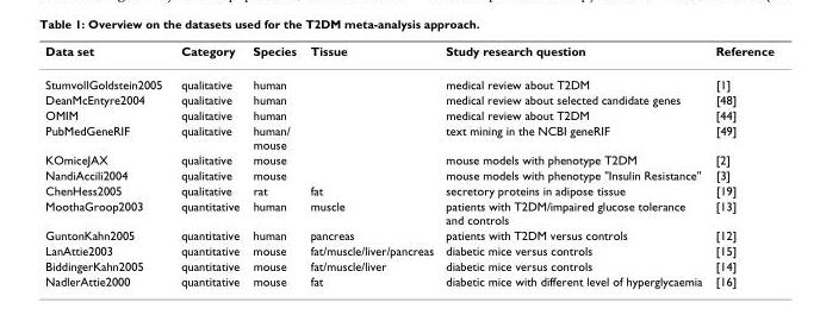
<table><thead><tr><td>Data set</td><td>Category</td><td>Species</td><td>Tissue</td><td>Study research question</td><td>Reference</td></tr></thead><tbody><tr><td>StumvollGoldstein2005</td><td>qualitative</td><td>human</td><td></td><td>medical review about T2DM</td><td>[1]</td></tr><tr><td>DeanMcEntyre2004</td><td>qualitative</td><td>human</td><td></td><td>medical review about selected candidate genes</td><td>[48]</td></tr><tr><td>OMIM</td><td>qualitative</td><td>human</td><td></td><td>medical review about T2DM</td><td>[44]</td></tr><tr><td>PubMedGeneRIF</td><td>qualitative</td><td>human/ mouse</td><td></td><td>text mining in the NCBI geneRIF</td><td>[49]</td></tr><tr><td>KOmiceJAX</td><td>qualitative</td><td>mouse</td><td></td><td>mouse models with phenotype T2DM</td><td>[2]</td></tr><tr><td>NandiAccili2004</td><td>qualitative</td><td>mouse</td><td></td><td>mouse models with phenotype &quot;Insulin Resistance&quot;</td><td>[3]</td></tr><tr><td>ChenHess2005</td><td>qualitative</td><td>rat</td><td>fat</td><td>secretory proteins in adipose tissue</td><td>[19]</td></tr><tr><td>MoothaGroop2003</td><td>quantitative</td><td>human</td><td>muscle</td><td>patients with T2DM/impaired glucose tolerance and controls</td><td>[13]</td></tr><tr><td>GuntonKahn2005</td><td>quantitative</td><td>human</td><td>pancreas</td><td>patients with T2DM versus controls</td><td>[12]</td></tr><tr><td>LanAttie2003</td><td>quantitative</td><td>mouse</td><td>fat/muscle/liver/pancreas</td><td>diabetic mice versus controls</td><td>[15]</td></tr><tr><td>BiddingerKahn2005</td><td>quantitative</td><td>mouse</td><td>fat/muscle/liver</td><td>diabetic mice versus controls</td><td>[14]</td></tr><tr><td>NadlerAttie2000</td><td>quantitative</td><td>mouse</td><td>fat</td><td>diabetic mice with different level of hyperglycaemia</td><td>[16]</td></tr></tbody></table>